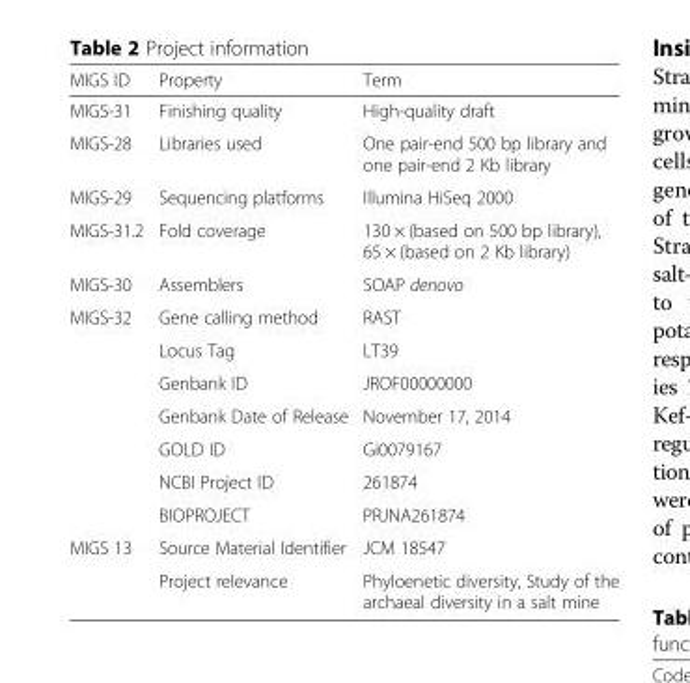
<table><thead><tr><td>MIGS ID</td><td>Property</td><td>Term</td></tr></thead><tbody><tr><td>MIGS-31</td><td>Finishing quality</td><td>High-quality draft</td></tr><tr><td>MIGS-28</td><td>Libraries used</td><td>One pair-end 500 bp library and one pair-end 2 Kb library</td></tr><tr><td>MIGS-29</td><td>Sequencing platforms</td><td>Illumina HiSeq 2000</td></tr><tr><td>MIGS-31.2</td><td>Fold coverage</td><td>130 × (based on 500 bp library), 65 × (based on 2 Kb library)</td></tr><tr><td>MIGS-30</td><td>Assemblers</td><td>SOAP denovo</td></tr><tr><td rowspan="7">MIGS-32</td><td>Gene calling method</td><td>RAST</td></tr><tr><td>Locus Tag</td><td>LT39</td></tr><tr><td>Genbank ID</td><td>JROF00000000</td></tr><tr><td>Genbank Date of Release</td><td>November 17, 2014</td></tr><tr><td>GOLD ID</td><td>Gi0079167</td></tr><tr><td>NCBI Project ID</td><td>261874</td></tr><tr><td>BIOPROJECT</td><td>PRJNA261874</td></tr><tr><td rowspan="2">MIGS 13</td><td>Source Material Identifier</td><td>JCM 18547</td></tr><tr><td>Project relevance</td><td>Phyloenetic diversity, Study of the archaeal diversity in a salt mine</td></tr></tbody></table>